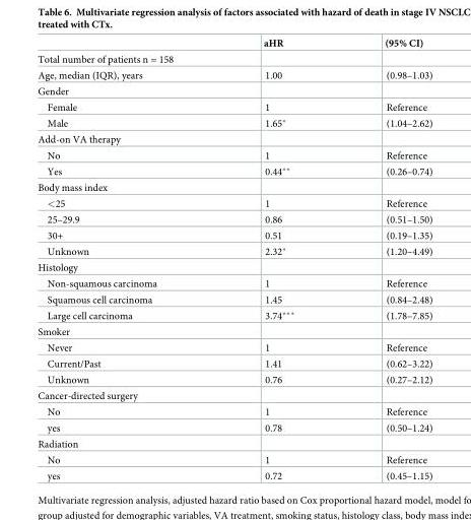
<table><thead><tr><td></td><td>aHR</td><td>(95% CI)</td></tr></thead><tbody><tr><td colspan="3">Total number of patients n = 158</td></tr><tr><td>Age, median (IQR), years</td><td>1.00</td><td>(0.98–1.03)</td></tr><tr><td colspan="3">Gender</td></tr><tr><td>Female</td><td>1</td><td>Reference</td></tr><tr><td>Male</td><td>1.65*</td><td>(1.04–2.62)</td></tr><tr><td colspan="3">Add-on VA therapy</td></tr><tr><td>No</td><td>1</td><td>Reference</td></tr><tr><td>Yes</td><td>0.44**</td><td>(0.26–0.74)</td></tr><tr><td colspan="3">Body mass index</td></tr><tr><td>&lt;25</td><td>1</td><td>Reference</td></tr><tr><td>25–29.9</td><td>0.86</td><td>(0.51–1.50)</td></tr><tr><td>30+</td><td>0.51</td><td>(0.19–1.35)</td></tr><tr><td>Unknown</td><td>2.32*</td><td>(1.20–4.49)</td></tr><tr><td colspan="3">Histology</td></tr><tr><td>Non-squamous carcinoma</td><td>1</td><td>Reference</td></tr><tr><td>Squamous cell carcinoma</td><td>1.45</td><td>(0.84–2.48)</td></tr><tr><td>Large cell carcinoma</td><td>3.74***</td><td>(1.78–7.85)</td></tr><tr><td colspan="3">Smoker</td></tr><tr><td>Never</td><td>1</td><td>Reference</td></tr><tr><td>Current/Past</td><td>1.41</td><td>(0.62–3.22)</td></tr><tr><td>Unknown</td><td>0.76</td><td>(0.27–2.12)</td></tr><tr><td colspan="3">Cancer-directed surgery</td></tr><tr><td>No</td><td>1</td><td>Reference</td></tr><tr><td>yes</td><td>0.78</td><td>(0.50–1.24)</td></tr><tr><td colspan="3">Radiation</td></tr><tr><td>No</td><td>1</td><td>Reference</td></tr><tr><td>yes</td><td>0.72</td><td>(0.45–1.15)</td></tr></tbody></table>